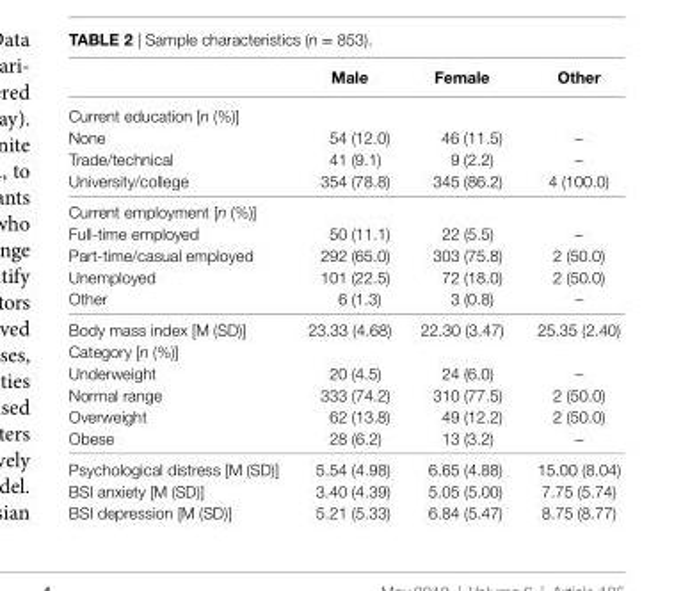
<table><thead><tr><td></td><td>Male</td><td>Female</td><td>Other</td></tr></thead><tbody><tr><td colspan="4">Current education [n (%)]</td></tr><tr><td>None</td><td>54 (12.0)</td><td>46 (11.5)</td><td>–</td></tr><tr><td>Trade/technical</td><td>41 (9.1)</td><td>9 (2.2)</td><td>–</td></tr><tr><td>University/college</td><td>354 (78.8)</td><td>345 (86.2)</td><td>4 (100.0)</td></tr><tr><td colspan="4">Current employment [n (%)]</td></tr><tr><td>Full-time employed</td><td>50 (11.1)</td><td>22 (5.5)</td><td>–</td></tr><tr><td>Part-time/casual employed</td><td>292 (65.0)</td><td>303 (75.8)</td><td>2 (50.0)</td></tr><tr><td>Unemployed</td><td>101 (22.5)</td><td>72 (18.0)</td><td>2 (50.0)</td></tr><tr><td>Other</td><td>6 (1.3)</td><td>3 (0.8)</td><td>–</td></tr><tr><td>Body mass index [M (SD)]</td><td>23.33 (4.68)</td><td>22.30 (3.47)</td><td>25.35 (2.40)</td></tr><tr><td colspan="4">Category [n (%)]</td></tr><tr><td>Underweight</td><td>20 (4.5)</td><td>24 (6.0)</td><td>–</td></tr><tr><td>Normal range</td><td>333 (74.2)</td><td>310 (77.5)</td><td>2 (50.0)</td></tr><tr><td>Overweight</td><td>62 (13.8)</td><td>49 (12.2)</td><td>2 (50.0)</td></tr><tr><td>Obese</td><td>28 (6.2)</td><td>13 (3.2)</td><td>–</td></tr><tr><td>Psychological distress [M (SD)]</td><td>5.54 (4.98)</td><td>6.65 (4.88)</td><td>15.00 (8.04)</td></tr><tr><td>BSI anxiety [M (SD)]</td><td>3.40 (4.39)</td><td>5.05 (5.00)</td><td>7.75 (5.74)</td></tr><tr><td>BSI depression [M (SD)]</td><td>5.21 (5.33)</td><td>6.84 (5.47)</td><td>8.75 (8.77)</td></tr></tbody></table>